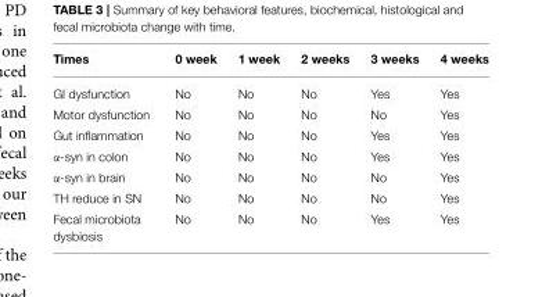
<table><thead><tr><td>Times</td><td>0 week</td><td>1 week</td><td>2 weeks</td><td>3 weeks</td><td>4 weeks</td></tr></thead><tbody><tr><td>GI dysfunction</td><td>No</td><td>No</td><td>No</td><td>Yes</td><td>Yes</td></tr><tr><td>Motor dysfunction</td><td>No</td><td>No</td><td>No</td><td>No</td><td>Yes</td></tr><tr><td>Gut inflammation</td><td>No</td><td>No</td><td>No</td><td>Yes</td><td>Yes</td></tr><tr><td>α-syn in colon</td><td>No</td><td>No</td><td>No</td><td>Yes</td><td>Yes</td></tr><tr><td>α-syn in brain</td><td>No</td><td>No</td><td>No</td><td>No</td><td>Yes</td></tr><tr><td>TH reduce in SN</td><td>No</td><td>No</td><td>No</td><td>No</td><td>Yes</td></tr><tr><td>Fecal microbiota dysbiosis</td><td>No</td><td>No</td><td>No</td><td>Yes</td><td>Yes</td></tr></tbody></table>